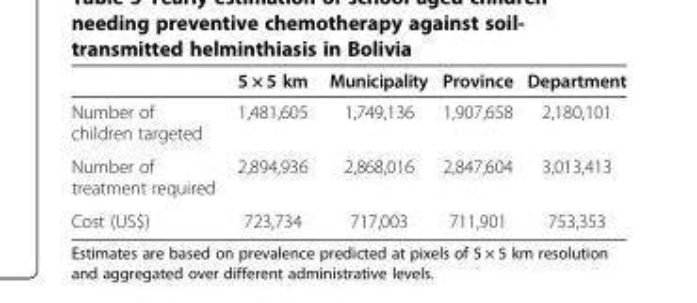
<table><thead><tr><td></td><td>5 × 5 km</td><td>Municipality</td><td>Province</td><td>Department</td></tr></thead><tbody><tr><td>Number of children targeted</td><td>1,481,605</td><td>1,749,136</td><td>1,907,658</td><td>2,180,101</td></tr><tr><td>Number of treatment required</td><td>2,894,936</td><td>2,868,016</td><td>2,847,604</td><td>3,013,413</td></tr><tr><td>Cost (US$)</td><td>723,734</td><td>717,003</td><td>711,901</td><td>753,353</td></tr></tbody></table>